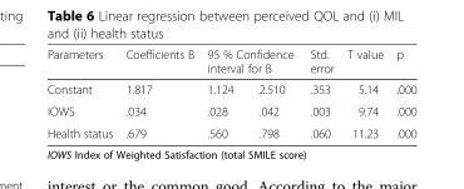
<table><thead><tr><td rowspan="2">Parameters Constant</td><td rowspan="2">Coefficients B 1.817</td><td colspan="2">95 % Confidence interval for B</td><td rowspan="2">Std. error .353</td><td rowspan="2">T value 5.14</td><td rowspan="2">p .000</td></tr><tr><td>1.124</td><td>2.510</td></tr></thead><tbody><tr><td>IOWS</td><td>.034</td><td>.028</td><td>.042</td><td>.003</td><td>9.74</td><td>.000</td></tr><tr><td>Health status</td><td>.679</td><td>.560</td><td>.798</td><td>.060</td><td>11.23</td><td>.000</td></tr></tbody></table>